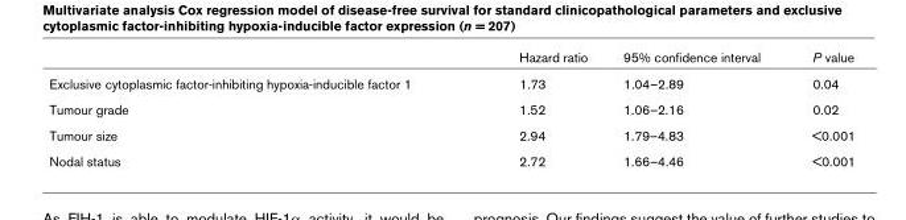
<table><thead><tr><td></td><td>Hazard ratio</td><td>95% confidence interval</td><td>P value</td></tr></thead><tbody><tr><td>Exclusive cytoplasmic factor-inhibiting hypoxia-inducible factor 1</td><td>1.73</td><td>1.04–2.89</td><td>0.04</td></tr><tr><td>Tumour grade</td><td>1.52</td><td>1.06–2.16</td><td>0.02</td></tr><tr><td>Tumour size</td><td>2.94</td><td>1.79–4.83</td><td>&lt;0.001</td></tr><tr><td>Nodal status</td><td>2.72</td><td>1.66–4.46</td><td>&lt;0.001</td></tr></tbody></table>